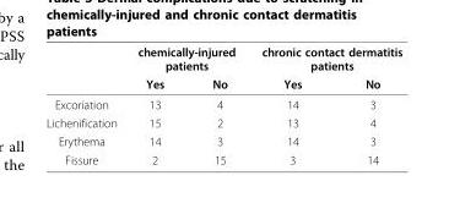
<table><thead><tr><td rowspan="2"></td><td colspan="2">chemically-injured patients</td><td colspan="2">chronic contact dermatitis patients</td></tr><tr><td>Yes</td><td>No</td><td>Yes</td><td>No</td></tr></thead><tbody><tr><td>Excoriation</td><td>13</td><td>4</td><td>14</td><td>3</td></tr><tr><td>Lichenification</td><td>15</td><td>2</td><td>13</td><td>4</td></tr><tr><td>Erythema</td><td>14</td><td>3</td><td>14</td><td>3</td></tr><tr><td>Fissure</td><td>2</td><td>15</td><td>3</td><td>14</td></tr></tbody></table>